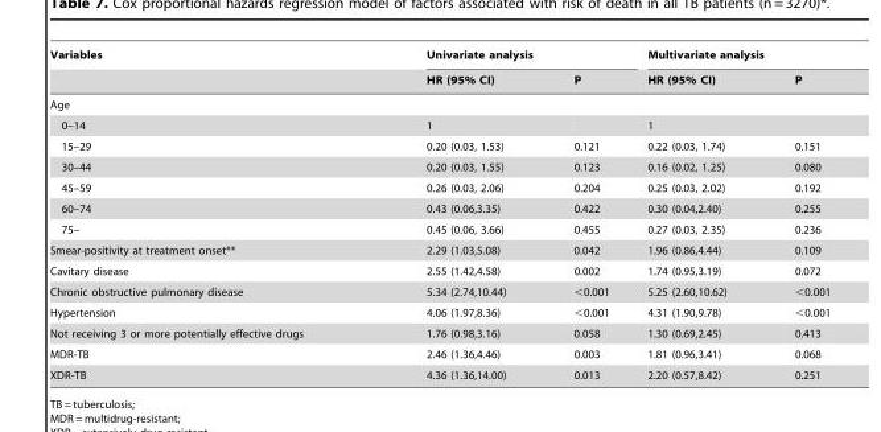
<table><thead><tr><td rowspan="2">Variables</td><td colspan="2">Univariate analysis</td><td colspan="2">Multivariate analysis</td></tr><tr><td>HR (95% CI)</td><td>P</td><td>HR (95% CI)</td><td>P</td></tr></thead><tbody><tr><td colspan="5">Age</td></tr><tr><td>0–14</td><td>1</td><td></td><td>1</td><td></td></tr><tr><td>15–29</td><td>0.20 (0.03, 1.53)</td><td>0.121</td><td>0.22 (0.03, 1.74)</td><td>0.151</td></tr><tr><td>30–44</td><td>0.20 (0.03, 1.55)</td><td>0.123</td><td>0.16 (0.02, 1.25)</td><td>0.080</td></tr><tr><td>45–59</td><td>0.26 (0.03, 2.06)</td><td>0.204</td><td>0.25 (0.03, 2.02)</td><td>0.192</td></tr><tr><td>60–74</td><td>0.43 (0.06,3.35)</td><td>0.422</td><td>0.30 (0.04,2.40)</td><td>0.255</td></tr><tr><td>75–</td><td>0.45 (0.06, 3.66)</td><td>0.455</td><td>0.27 (0.03, 2.35)</td><td>0.236</td></tr><tr><td>Smear-positivity at treatment onset**</td><td>2.29 (1.03,5.08)</td><td>0.042</td><td>1.96 (0.86,4.44)</td><td>0.109</td></tr><tr><td>Cavitary disease</td><td>2.55 (1.42,4.58)</td><td>0.002</td><td>1.74 (0.95,3.19)</td><td>0.072</td></tr><tr><td>Chronic obstructive pulmonary disease</td><td>5.34 (2.74,10.44)</td><td>&lt;0.001</td><td>5.25 (2.60,10.62)</td><td>&lt;0.001</td></tr><tr><td>Hypertension</td><td>4.06 (1.97,8.36)</td><td>&lt;0.001</td><td>4.31 (1.90,9.78)</td><td>&lt;0.001</td></tr><tr><td>Not receiving 3 or more potentially effective drugs</td><td>1.76 (0.98,3.16)</td><td>0.058</td><td>1.30 (0.69,2.45)</td><td>0.413</td></tr><tr><td>MDR-TB</td><td>2.46 (1.36,4.46)</td><td>0.003</td><td>1.81 (0.96,3.41)</td><td>0.068</td></tr><tr><td>XDR-TB</td><td>4.36 (1.36,14.00)</td><td>0.013</td><td>2.20 (0.57,8.42)</td><td>0.251</td></tr></tbody></table>